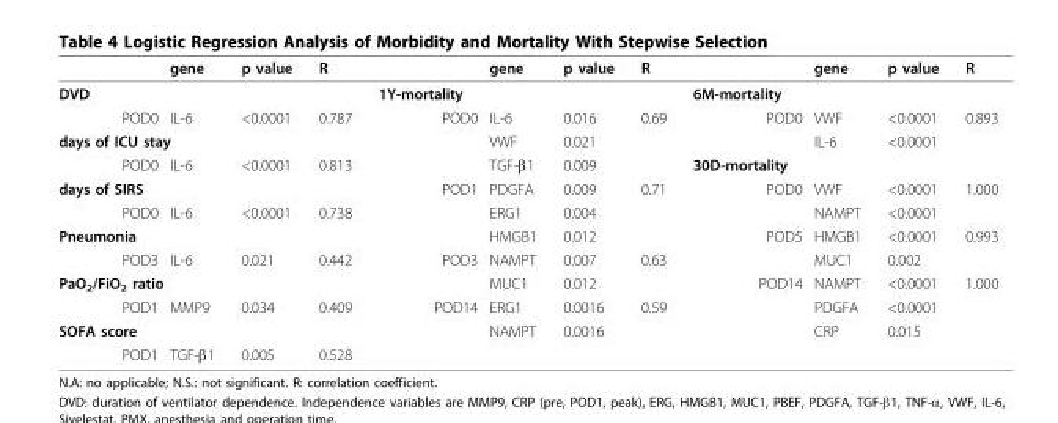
<table><thead><tr><td></td><td>gene</td><td>p value</td><td>R</td><td></td><td>gene</td><td>p value</td><td>R</td><td></td><td>gene</td><td>p value</td><td>R</td></tr></thead><tbody><tr><td>DVD</td><td></td><td></td><td></td><td>1Y-mortality</td><td></td><td></td><td></td><td>6M-mortality</td><td></td><td></td><td></td></tr><tr><td>POD0</td><td>IL-6</td><td>&lt;0.0001</td><td>0.787</td><td>POD0</td><td>IL-6</td><td>0.016</td><td>0.69</td><td>POD0</td><td>VWF</td><td>&lt;0.0001</td><td>0.893</td></tr><tr><td colspan="2">days of ICU stay</td><td></td><td></td><td></td><td>VWF</td><td>0.021</td><td></td><td></td><td>IL-6</td><td>&lt;0.0001</td><td></td></tr><tr><td>POD0</td><td>IL-6</td><td>&lt;0.0001</td><td>0.813</td><td></td><td>TGF-β1</td><td>0.009</td><td></td><td>30D-mortality</td><td></td><td></td><td></td></tr><tr><td>days of SIRS</td><td></td><td></td><td></td><td>POD1</td><td>PDGFA</td><td>0.009</td><td>0.71</td><td>POD0</td><td>VWF</td><td>&lt;0.0001</td><td>1.000</td></tr><tr><td>POD0</td><td>IL-6</td><td>&lt;0.0001</td><td>0.738</td><td></td><td>ERG1</td><td>0.004</td><td></td><td></td><td>NAMPT</td><td>&lt;0.0001</td><td></td></tr><tr><td>Pneumonia</td><td></td><td></td><td></td><td></td><td>HMGB1</td><td>0.012</td><td></td><td>POD5</td><td>HMGB1</td><td>&lt;0.0001</td><td>0.993</td></tr><tr><td>POD3</td><td>IL-6</td><td>0.021</td><td>0.442</td><td>POD3</td><td>NAMPT</td><td>0.007</td><td>0.63</td><td></td><td>MUC1</td><td>0.002</td><td></td></tr><tr><td colspan="2">PaO<sub>2</sub>/FiO<sub>2</sub> ratio</td><td></td><td></td><td></td><td>MUC1</td><td>0.012</td><td></td><td>POD14</td><td>NAMPT</td><td>&lt;0.0001</td><td>1.000</td></tr><tr><td>POD1</td><td>MMP9</td><td>0.034</td><td>0.409</td><td>POD14</td><td>ERG1</td><td>0.0016</td><td>0.59</td><td></td><td>PDGFA</td><td>&lt;0.0001</td><td></td></tr><tr><td>SOFA score</td><td></td><td></td><td></td><td></td><td>NAMPT</td><td>0.0016</td><td></td><td></td><td>CRP</td><td>0.015</td><td></td></tr><tr><td>POD1</td><td>TGF-β1</td><td>0.005</td><td>0.528</td><td></td><td></td><td></td><td></td><td></td><td></td><td></td><td></td></tr></tbody></table>